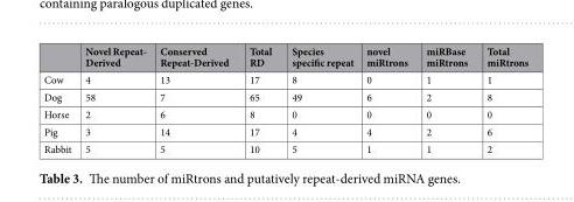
<table><thead><tr><td></td><td>Novel Repeat- Derived</td><td>Conserved Repeat-Derived</td><td>Total RD</td><td>Species specific repeat</td><td>novel miRtrons</td><td>miRBase miRtrons</td><td>Total miRtrons</td></tr></thead><tbody><tr><td>Cow</td><td>4</td><td>13</td><td>17</td><td>8</td><td>0</td><td>1</td><td>1</td></tr><tr><td>Dog</td><td>58</td><td>7</td><td>65</td><td>49</td><td>6</td><td>2</td><td>8</td></tr><tr><td>Horse</td><td>2</td><td>6</td><td>8</td><td>0</td><td>0</td><td>0</td><td>0</td></tr><tr><td>Pig</td><td>3</td><td>14</td><td>17</td><td>4</td><td>4</td><td>2</td><td>6</td></tr><tr><td>Rabbit</td><td>5</td><td>5</td><td>10</td><td>5</td><td>1</td><td>1</td><td>2</td></tr></tbody></table>